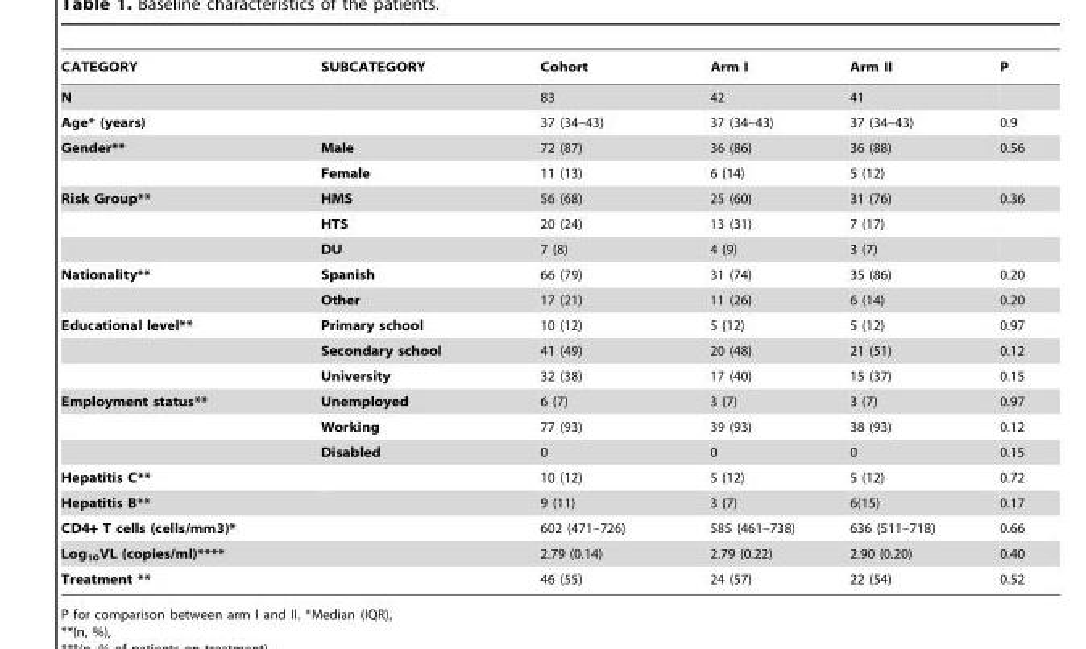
<table><thead><tr><td>CATEGORY</td><td>SUBCATEGORY</td><td>Cohort</td><td>Arm I</td><td>Arm II</td><td>P</td></tr></thead><tbody><tr><td>N</td><td></td><td>83</td><td>42</td><td>41</td><td></td></tr><tr><td>Age* (years)</td><td></td><td>37 (34–43)</td><td>37 (34–43)</td><td>37 (34–43)</td><td>0.9</td></tr><tr><td rowspan="2">Gender**</td><td>Male</td><td>72 (87)</td><td>36 (86)</td><td>36 (88)</td><td>0.56</td></tr><tr><td>Female</td><td>11 (13)</td><td>6 (14)</td><td>5 (12)</td><td></td></tr><tr><td rowspan="3">Risk Group**</td><td>HMS</td><td>56 (68)</td><td>25 (60)</td><td>31 (76)</td><td>0.36</td></tr><tr><td>HTS</td><td>20 (24)</td><td>13 (31)</td><td>7 (17)</td><td></td></tr><tr><td>DU</td><td>7 (8)</td><td>4 (9)</td><td>3 (7)</td><td></td></tr><tr><td rowspan="2">Nationality**</td><td>Spanish</td><td>66 (79)</td><td>31 (74)</td><td>35 (86)</td><td>0.20</td></tr><tr><td>Other</td><td>17 (21)</td><td>11 (26)</td><td>6 (14)</td><td>0.20</td></tr><tr><td rowspan="3">Educational level**</td><td>Primary school</td><td>10 (12)</td><td>5 (12)</td><td>5 (12)</td><td>0.97</td></tr><tr><td>Secondary school</td><td>41 (49)</td><td>20 (48)</td><td>21 (51)</td><td>0.12</td></tr><tr><td>University</td><td>32 (38)</td><td>17 (40)</td><td>15 (37)</td><td>0.15</td></tr><tr><td rowspan="3">Employment status**</td><td>Unemployed</td><td>6 (7)</td><td>3 (7)</td><td>3 (7)</td><td>0.97</td></tr><tr><td>Working</td><td>77 (93)</td><td>39 (93)</td><td>38 (93)</td><td>0.12</td></tr><tr><td>Disabled</td><td>0</td><td>0</td><td>0</td><td>0.15</td></tr><tr><td>Hepatitis C**</td><td></td><td>10 (12)</td><td>5 (12)</td><td>5 (12)</td><td>0.72</td></tr><tr><td>Hepatitis B**</td><td></td><td>9 (11)</td><td>3 (7)</td><td>6(15)</td><td>0.17</td></tr><tr><td>CD4+ T cells (cells/mm3)*</td><td></td><td>602 (471–726)</td><td>585 (461–738)</td><td>636 (511–718)</td><td>0.66</td></tr><tr><td>Log<sub>10</sub>VL (copies/ml)****</td><td></td><td>2.79 (0.14)</td><td>2.79 (0.22)</td><td>2.90 (0.20)</td><td>0.40</td></tr><tr><td>Treatment **</td><td></td><td>46 (55)</td><td>24 (57)</td><td>22 (54)</td><td>0.52</td></tr></tbody></table>